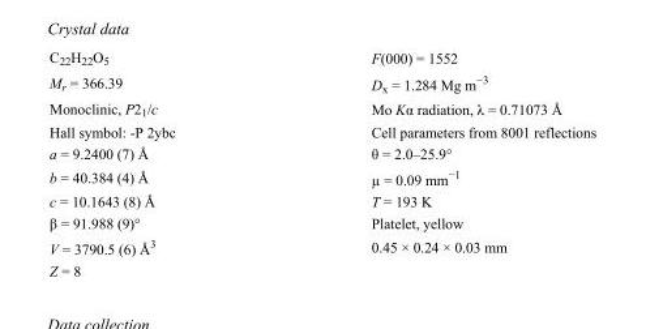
<table><tbody><tr><td>C<sub>22</sub>H<sub>22</sub>O<sub>5</sub></td><td>F(000) = 1552</td></tr><tr><td>M<sub>r</sub> = 366.39</td><td>D<sub>x</sub> = 1.284 Mg m<sup>−3</sup></td></tr><tr><td>Monoclinic, P2<sub>1</sub>/c</td><td>Mo Kα radiation, λ = 0.71073 Å</td></tr><tr><td>Hall symbol: -P 2ybc</td><td>Cell parameters from 8001 reflections</td></tr><tr><td>a = 9.2400 (7) Å</td><td>θ = 2.0–25.9°</td></tr><tr><td>b = 40.384 (4) Å</td><td>µ = 0.09 mm<sup>−1</sup></td></tr><tr><td>c = 10.1643 (8) Å</td><td>T = 193 K</td></tr><tr><td>β = 91.988 (9)°</td><td>Platelet, yellow</td></tr><tr><td>V = 3790.5 (6) Å<sup>3</sup></td><td>0.45 × 0.24 × 0.03 mm</td></tr><tr><td>Z = 8</td><td></td></tr></tbody></table>